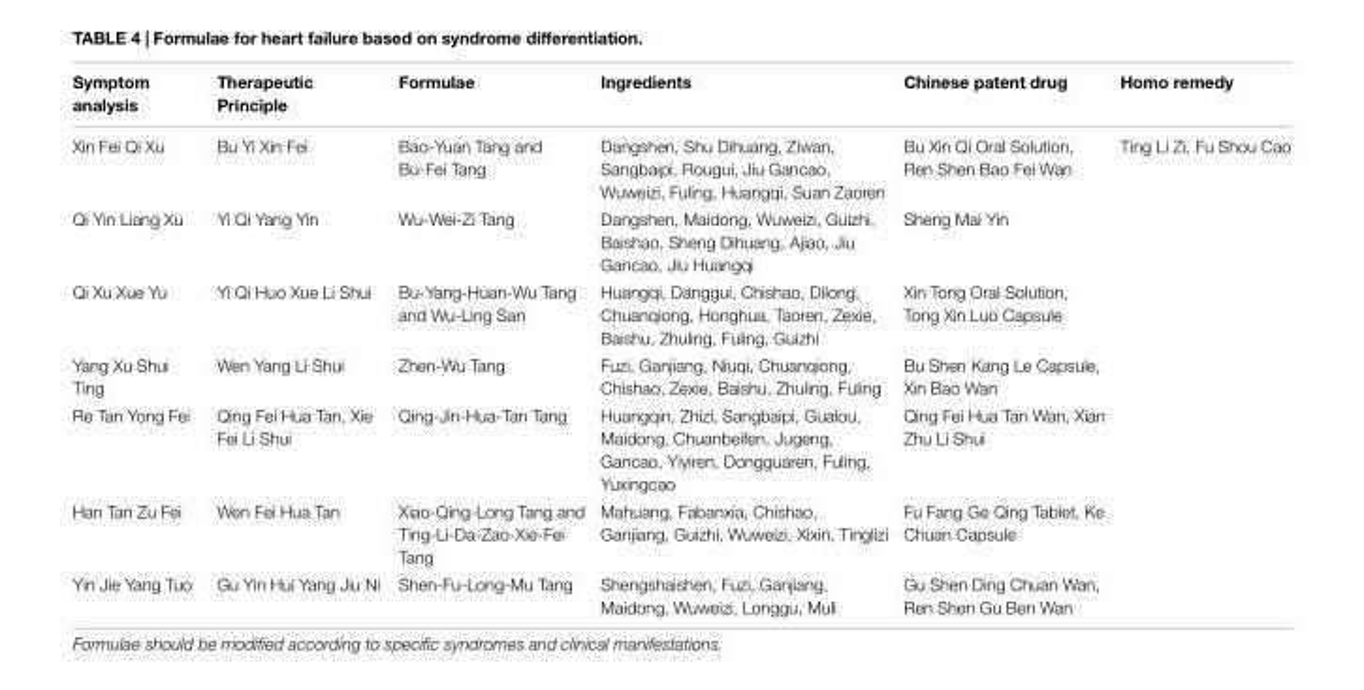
<table><thead><tr><td>Symptom analysis</td><td>Therapeutic Principle</td><td>Formulae</td><td>Ingredients</td><td>Chinese patent drug</td><td>Homo remedy</td></tr></thead><tbody><tr><td>Xin Fei Qi Xu</td><td>Bu Yi Xin Fei</td><td>Bao-Yuan Tang and Bu-Fei Tang</td><td>Dangshen, Shu Dihuang, Ziwan, Sangbaipi, Rougui, Jiu Gancao, Wuweizi, Fuling, Huangqi, Suan Zaoren</td><td>Bu Xin Qi Oral Solution, Ren Shen Bao Fei Wan</td><td>Ting Li Zi, Fu Shou Cao</td></tr><tr><td>Qi Yin Liang Xu</td><td>Yi Qi Yang Yin</td><td>Wu-Wei-Zi Tang</td><td>Dangshen, Maidong, Wuweizi, Guizhi, Baishao, Sheng Dihuang, Ajiao, Jiu Gancao, Jiu Huangqi</td><td>Sheng Mai Yin</td><td></td></tr><tr><td>Qi Xu Xue Yu</td><td>Yi Qi Huo Xue Li Shui</td><td>Bu-Yang-Huan-Wu Tang and Wu-Ling San</td><td>Huangqi, Danggui, Chishao, Dilong, Chuanqiong, Honghua, Taoren, Zexie, Baishu, Zhuling, Fuling, Guizhi</td><td>Xin Tong Oral Solution, Tong Xin Luo Capsule</td><td></td></tr><tr><td>Yang Xu Shui Ting</td><td>Wen Yang Li Shui</td><td>Zhen-Wu Tang</td><td>Fuzi, Ganjiang, Niuqi, Chuanqiong, Chishao, Zexie, Baishu, Zhuling, Fuling</td><td>Bu Shen Kang Le Capsule, Xin Bao Wan</td><td></td></tr><tr><td>Re Tan Yong Fei</td><td>Qing Fei Hua Tan, Xie Fei Li Shui</td><td>Qing-Jin-Hua-Tan Tang</td><td>Huangqin, Zhizi, Sangbaipi, Gualou, Maidong, Chuanbeifen, Jugeng, Gancao, Yiyiren, Dongguaren, Fuling, Yuxingcao</td><td>Qing Fei Hua Tan Wan, Xian Zhu Li Shui</td><td></td></tr><tr><td>Han Tan Zu Fei</td><td>Wen Fei Hua Tan</td><td>Xiao-Qing-Long Tang and Ting-Li-Da-Zao-Xie-Fei Tang</td><td>Mahuang, Fabanxia, Chishao, Ganjiang, Guizhi, Wuweizi, Xixin, Tinglizi</td><td>Fu Fang Ge Qing Tablet, Ke Chuan Capsule</td><td></td></tr><tr><td>Yin Jie Yang Tuo</td><td>Gu Yin Hui Yang Jiu Ni</td><td>Shen-Fu-Long-Mu Tang</td><td>Shengshaishen, Fuzi, Ganjiang, Maidong, Wuweizi, Longgu, Muli</td><td>Gu Shen Ding Chuan Wan, Ren Shen Gu Ben Wan</td><td></td></tr></tbody></table>